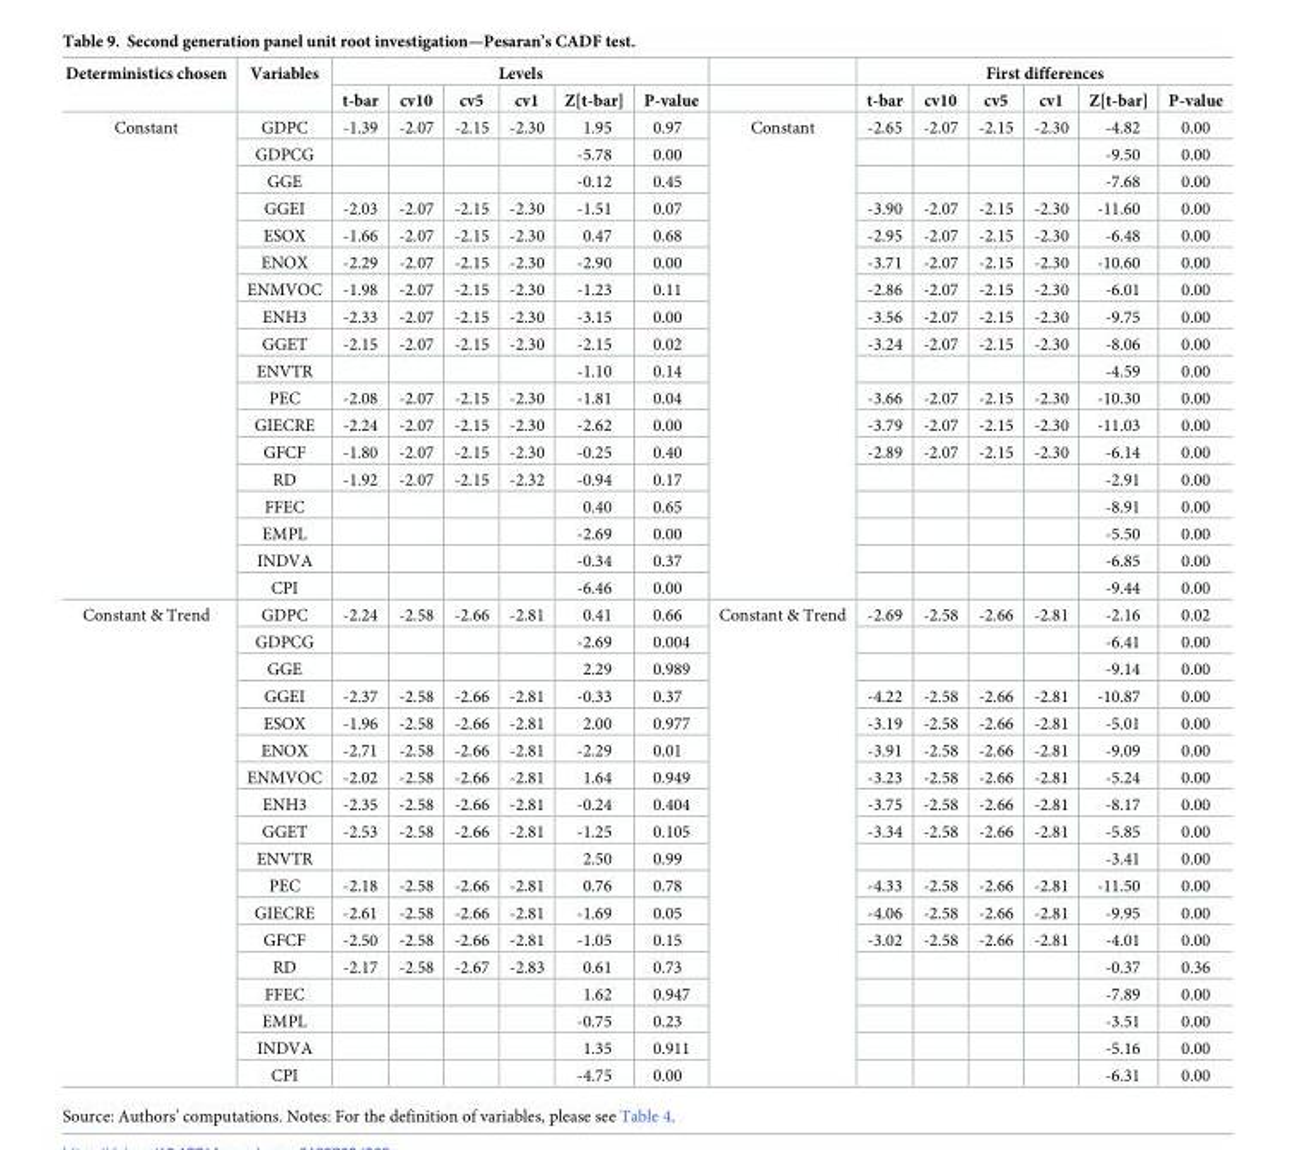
<table><thead><tr><td rowspan="2">Deterministics chosen</td><td rowspan="2">Variables</td><td colspan="6">Levels</td><td rowspan="2"></td><td colspan="6">First differences</td></tr><tr><td>t-bar</td><td>cv10</td><td>cv5</td><td>cv1</td><td>Z[t-bar]</td><td>P-value</td><td>t-bar</td><td>cv10</td><td>cv5</td><td>cv1</td><td>Z[t-bar]</td><td>P-value</td></tr></thead><tbody><tr><td rowspan="18">Constant</td><td>GDPC</td><td>-1.39</td><td>-2.07</td><td>-2.15</td><td>-2.30</td><td>1.95</td><td>0.97</td><td rowspan="18">Constant</td><td>-2.65</td><td>-2.07</td><td>-2.15</td><td>-2.30</td><td>-4.82</td><td>0.00</td></tr><tr><td>GDPCG</td><td></td><td></td><td></td><td></td><td>-5.78</td><td>0.00</td><td></td><td></td><td></td><td></td><td>-9.50</td><td>0.00</td></tr><tr><td>GGE</td><td></td><td></td><td></td><td></td><td>-0.12</td><td>0.45</td><td></td><td></td><td></td><td></td><td>-7.68</td><td>0.00</td></tr><tr><td>GGEI</td><td>-2.03</td><td>-2.07</td><td>-2.15</td><td>-2.30</td><td>-1.51</td><td>0.07</td><td>-3.90</td><td>-2.07</td><td>-2.15</td><td>-2.30</td><td>-11.60</td><td>0.00</td></tr><tr><td>ESOX</td><td>-1.66</td><td>-2.07</td><td>-2.15</td><td>-2.30</td><td>0.47</td><td>0.68</td><td>-2.95</td><td>-2.07</td><td>-2.15</td><td>-2.30</td><td>-6.48</td><td>0.00</td></tr><tr><td>ENOX</td><td>-2.29</td><td>-2.07</td><td>-2.15</td><td>-2.30</td><td>-2.90</td><td>0.00</td><td>-3.71</td><td>-2.07</td><td>-2.15</td><td>-2.30</td><td>-10.60</td><td>0.00</td></tr><tr><td>ENMVOC</td><td>-1.98</td><td>-2.07</td><td>-2.15</td><td>-2.30</td><td>-1.23</td><td>0.11</td><td>-2.86</td><td>-2.07</td><td>-2.15</td><td>-2.30</td><td>-6.01</td><td>0.00</td></tr><tr><td>ENH3</td><td>-2.33</td><td>-2.07</td><td>-2.15</td><td>-2.30</td><td>-3.15</td><td>0.00</td><td>-3.56</td><td>-2.07</td><td>-2.15</td><td>-2.30</td><td>-9.75</td><td>0.00</td></tr><tr><td>GGET</td><td>-2.15</td><td>-2.07</td><td>-2.15</td><td>-2.30</td><td>-2.15</td><td>0.02</td><td>-3.24</td><td>-2.07</td><td>-2.15</td><td>-2.30</td><td>-8.06</td><td>0.00</td></tr><tr><td>ENVTR</td><td></td><td></td><td></td><td></td><td>-1.10</td><td>0.14</td><td></td><td></td><td></td><td></td><td>-4.59</td><td>0.00</td></tr><tr><td>PEC</td><td>-2.08</td><td>-2.07</td><td>-2.15</td><td>-2.30</td><td>-1.81</td><td>0.04</td><td>-3.66</td><td>-2.07</td><td>-2.15</td><td>-2.30</td><td>-10.30</td><td>0.00</td></tr><tr><td>GIECRE</td><td>-2.24</td><td>-2.07</td><td>-2.15</td><td>-2.30</td><td>-2.62</td><td>0.00</td><td>-3.79</td><td>-2.07</td><td>-2.15</td><td>-2.30</td><td>-11.03</td><td>0.00</td></tr><tr><td>GFCF</td><td>-1.80</td><td>-2.07</td><td>-2.15</td><td>-2.30</td><td>-0.25</td><td>0.40</td><td>-2.89</td><td>-2.07</td><td>-2.15</td><td>-2.30</td><td>-6.14</td><td>0.00</td></tr><tr><td>RD</td><td>-1.92</td><td>-2.07</td><td>-2.15</td><td>-2.32</td><td>-0.94</td><td>0.17</td><td></td><td></td><td></td><td></td><td>-2.91</td><td>0.00</td></tr><tr><td>FFEC</td><td></td><td></td><td></td><td></td><td>0.40</td><td>0.65</td><td></td><td></td><td></td><td></td><td>-8.91</td><td>0.00</td></tr><tr><td>EMPL</td><td></td><td></td><td></td><td></td><td>-2.69</td><td>0.00</td><td></td><td></td><td></td><td></td><td>-5.50</td><td>0.00</td></tr><tr><td>INDVA</td><td></td><td></td><td></td><td></td><td>-0.34</td><td>0.37</td><td></td><td></td><td></td><td></td><td>-6.85</td><td>0.00</td></tr><tr><td>CPI</td><td></td><td></td><td></td><td></td><td>-6.46</td><td>0.00</td><td></td><td></td><td></td><td></td><td>-9.44</td><td>0.00</td></tr><tr><td rowspan="18">Constant &amp; Trend</td><td>GDPC</td><td>-2.24</td><td>-2.58</td><td>-2.66</td><td>-2.81</td><td>0.41</td><td>0.66</td><td rowspan="18">Constant &amp; Trend</td><td>-2.69</td><td>-2.58</td><td>-2.66</td><td>-2.81</td><td>-2.16</td><td>0.02</td></tr><tr><td>GDPCG</td><td></td><td></td><td></td><td></td><td>-2.69</td><td>0.004</td><td></td><td></td><td></td><td></td><td>-6.41</td><td>0.00</td></tr><tr><td>GGE</td><td></td><td></td><td></td><td></td><td>2.29</td><td>0.989</td><td></td><td></td><td></td><td></td><td>-9.14</td><td>0.00</td></tr><tr><td>GGEI</td><td>-2.37</td><td>-2.58</td><td>-2.66</td><td>-2.81</td><td>-0.33</td><td>0.37</td><td>-4.22</td><td>-2.58</td><td>-2.66</td><td>-2.81</td><td>-10.87</td><td>0.00</td></tr><tr><td>ESOX</td><td>-1.96</td><td>-2.58</td><td>-2.66</td><td>-2.81</td><td>2.00</td><td>0.977</td><td>-3.19</td><td>-2.58</td><td>-2.66</td><td>-2.81</td><td>-5.01</td><td>0.00</td></tr><tr><td>ENOX</td><td>-2.71</td><td>-2.58</td><td>-2.66</td><td>-2.81</td><td>-2.29</td><td>0.01</td><td>-3.91</td><td>-2.58</td><td>-2.66</td><td>-2.81</td><td>-9.09</td><td>0.00</td></tr><tr><td>ENMVOC</td><td>-2.02</td><td>-2.58</td><td>-2.66</td><td>-2.81</td><td>1.64</td><td>0.949</td><td>-3.23</td><td>-2.58</td><td>-2.66</td><td>-2.81</td><td>-5.24</td><td>0.00</td></tr><tr><td>ENH3</td><td>-2.35</td><td>-2.58</td><td>-2.66</td><td>-2.81</td><td>-0.24</td><td>0.404</td><td>-3.75</td><td>-2.58</td><td>-2.66</td><td>-2.81</td><td>-8.17</td><td>0.00</td></tr><tr><td>GGET</td><td>-2.53</td><td>-2.58</td><td>-2.66</td><td>-2.81</td><td>-1.25</td><td>0.105</td><td>-3.34</td><td>-2.58</td><td>-2.66</td><td>-2.81</td><td>-5.85</td><td>0.00</td></tr><tr><td>ENVTR</td><td></td><td></td><td></td><td></td><td>2.50</td><td>0.99</td><td></td><td></td><td></td><td></td><td>-3.41</td><td>0.00</td></tr><tr><td>PEC</td><td>-2.18</td><td>-2.58</td><td>-2.66</td><td>-2.81</td><td>0.76</td><td>0.78</td><td>-4.33</td><td>-2.58</td><td>-2.66</td><td>-2.81</td><td>-11.50</td><td>0.00</td></tr><tr><td>GIECRE</td><td>-2.61</td><td>-2.58</td><td>-2.66</td><td>-2.81</td><td>-1.69</td><td>0.05</td><td>-4.06</td><td>-2.58</td><td>-2.66</td><td>-2.81</td><td>-9.95</td><td>0.00</td></tr><tr><td>GFCF</td><td>-2.50</td><td>-2.58</td><td>-2.66</td><td>-2.81</td><td>-1.05</td><td>0.15</td><td>-3.02</td><td>-2.58</td><td>-2.66</td><td>-2.81</td><td>-4.01</td><td>0.00</td></tr><tr><td>RD</td><td>-2.17</td><td>-2.58</td><td>-2.67</td><td>-2.83</td><td>0.61</td><td>0.73</td><td></td><td></td><td></td><td></td><td>-0.37</td><td>0.36</td></tr><tr><td>FFEC</td><td></td><td></td><td></td><td></td><td>1.62</td><td>0.947</td><td></td><td></td><td></td><td></td><td>-7.89</td><td>0.00</td></tr><tr><td>EMPL</td><td></td><td></td><td></td><td></td><td>-0.75</td><td>0.23</td><td></td><td></td><td></td><td></td><td>-3.51</td><td>0.00</td></tr><tr><td>INDVA</td><td></td><td></td><td></td><td></td><td>1.35</td><td>0.911</td><td></td><td></td><td></td><td></td><td>-5.16</td><td>0.00</td></tr><tr><td>CPI</td><td></td><td></td><td></td><td></td><td>-4.75</td><td>0.00</td><td></td><td></td><td></td><td></td><td>-6.31</td><td>0.00</td></tr></tbody></table>